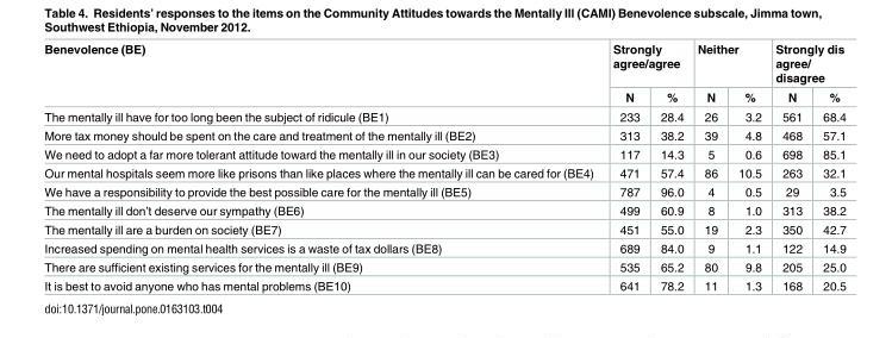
<table><thead><tr><td rowspan="2">Benevolence (BE)</td><td colspan="2">Strongly agree/agree</td><td colspan="2">Neither</td><td colspan="2">Strongly dis agree/ disagree</td></tr><tr><td>N</td><td>%</td><td>N</td><td>%</td><td>N</td><td>%</td></tr></thead><tbody><tr><td>The mentally ill have for too long been the subject of ridicule (BE1)</td><td>233</td><td>28.4</td><td>26</td><td>3.2</td><td>561</td><td>68.4</td></tr><tr><td>More tax money should be spent on the care and treatment of the mentally ill (BE2)</td><td>313</td><td>38.2</td><td>39</td><td>4.8</td><td>468</td><td>57.1</td></tr><tr><td>We need to adopt a far more tolerant attitude toward the mentally ill in our society (BE3)</td><td>117</td><td>14.3</td><td>5</td><td>0.6</td><td>698</td><td>85.1</td></tr><tr><td>Our mental hospitals seem more like prisons than like places where the mentally ill can be cared for (BE4)</td><td>471</td><td>57.4</td><td>86</td><td>10.5</td><td>263</td><td>32.1</td></tr><tr><td>We have a responsibility to provide the best possible care for the mentally ill (BE5)</td><td>787</td><td>96.0</td><td>4</td><td>0.5</td><td>29</td><td>3.5</td></tr><tr><td>The mentally ill don’t deserve our sympathy (BE6)</td><td>499</td><td>60.9</td><td>8</td><td>1.0</td><td>313</td><td>38.2</td></tr><tr><td>The mentally ill are a burden on society (BE7)</td><td>451</td><td>55.0</td><td>19</td><td>2.3</td><td>350</td><td>42.7</td></tr><tr><td>Increased spending on mental health services is a waste of tax dollars (BE8)</td><td>689</td><td>84.0</td><td>9</td><td>1.1</td><td>122</td><td>14.9</td></tr><tr><td>There are sufficient existing services for the mentally ill (BE9)</td><td>535</td><td>65.2</td><td>80</td><td>9.8</td><td>205</td><td>25.0</td></tr><tr><td>It is best to avoid anyone who has mental problems (BE10)</td><td>641</td><td>78.2</td><td>11</td><td>1.3</td><td>168</td><td>20.5</td></tr></tbody></table>